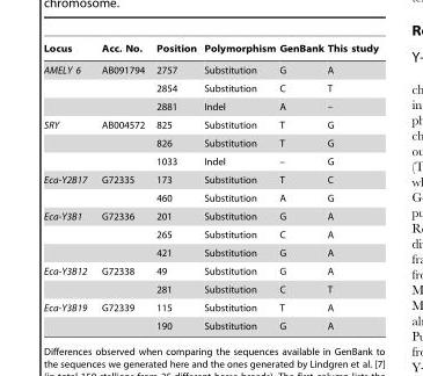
<table><thead><tr><td>Locus</td><td>Acc. No.</td><td>Position</td><td>Polymorphism</td><td>GenBank</td><td>This study</td></tr></thead><tbody><tr><td rowspan="3">AMELY 6</td><td>AB091794</td><td>2757</td><td>Substitution</td><td>G</td><td>A</td></tr><tr><td></td><td>2854</td><td>Substitution</td><td>C</td><td>T</td></tr><tr><td></td><td>2881</td><td>Indel</td><td>A</td><td>–</td></tr><tr><td rowspan="3">SRY</td><td>AB004572</td><td>825</td><td>Substitution</td><td>T</td><td>G</td></tr><tr><td></td><td>826</td><td>Substitution</td><td>T</td><td>G</td></tr><tr><td></td><td>1033</td><td>Indel</td><td>–</td><td>G</td></tr><tr><td rowspan="2">Eca-Y2B17</td><td>G72335</td><td>173</td><td>Substitution</td><td>T</td><td>C</td></tr><tr><td></td><td>460</td><td>Substitution</td><td>A</td><td>G</td></tr><tr><td rowspan="3">Eca-Y3B1</td><td>G72336</td><td>201</td><td>Substitution</td><td>G</td><td>A</td></tr><tr><td></td><td>265</td><td>Substitution</td><td>C</td><td>A</td></tr><tr><td></td><td>421</td><td>Substitution</td><td>G</td><td>A</td></tr><tr><td rowspan="2">Eca-Y3B12</td><td>G72338</td><td>49</td><td>Substitution</td><td>G</td><td>A</td></tr><tr><td></td><td>281</td><td>Substitution</td><td>C</td><td>T</td></tr><tr><td rowspan="2">Eca-Y3B19</td><td>G72339</td><td>115</td><td>Substitution</td><td>T</td><td>A</td></tr><tr><td></td><td>190</td><td>Substitution</td><td>G</td><td>A</td></tr></tbody></table>